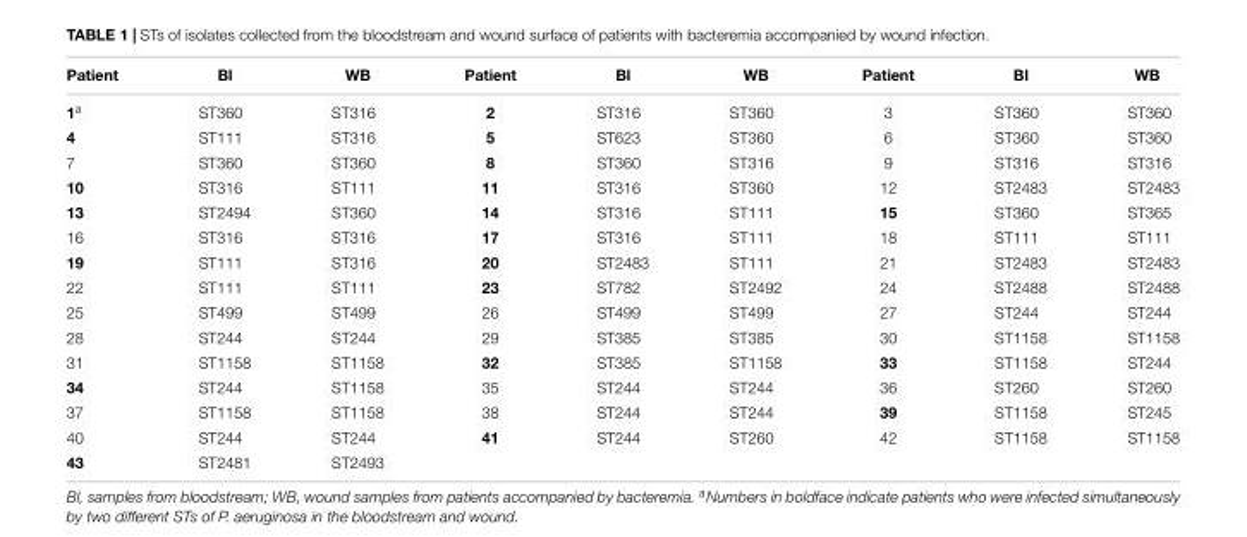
<table><thead><tr><td>Patient</td><td>Bl</td><td>WB</td><td>Patient</td><td>Bl</td><td>WB</td><td>Patient</td><td>Bl</td><td>WB</td></tr></thead><tbody><tr><td>1<sup>a</sup></td><td>ST360</td><td>ST316</td><td>2</td><td>ST316</td><td>ST360</td><td>3</td><td>ST360</td><td>ST360</td></tr><tr><td>4</td><td>ST111</td><td>ST316</td><td>5</td><td>ST623</td><td>ST360</td><td>6</td><td>ST360</td><td>ST360</td></tr><tr><td>7</td><td>ST360</td><td>ST360</td><td>8</td><td>ST360</td><td>ST316</td><td>9</td><td>ST316</td><td>ST316</td></tr><tr><td>10</td><td>ST316</td><td>ST111</td><td>11</td><td>ST316</td><td>ST360</td><td>12</td><td>ST2483</td><td>ST2483</td></tr><tr><td>13</td><td>ST2494</td><td>ST360</td><td>14</td><td>ST316</td><td>ST111</td><td>15</td><td>ST360</td><td>ST365</td></tr><tr><td>16</td><td>ST316</td><td>ST316</td><td>17</td><td>ST316</td><td>ST111</td><td>18</td><td>ST111</td><td>ST111</td></tr><tr><td>19</td><td>ST111</td><td>ST316</td><td>20</td><td>ST2483</td><td>ST111</td><td>21</td><td>ST2483</td><td>ST2483</td></tr><tr><td>22</td><td>ST111</td><td>ST111</td><td>23</td><td>ST782</td><td>ST2492</td><td>24</td><td>ST2488</td><td>ST2488</td></tr><tr><td>25</td><td>ST499</td><td>ST499</td><td>26</td><td>ST499</td><td>ST499</td><td>27</td><td>ST244</td><td>ST244</td></tr><tr><td>28</td><td>ST244</td><td>ST244</td><td>29</td><td>ST385</td><td>ST385</td><td>30</td><td>ST1158</td><td>ST1158</td></tr><tr><td>31</td><td>ST1158</td><td>ST1158</td><td>32</td><td>ST385</td><td>ST1158</td><td>33</td><td>ST1158</td><td>ST244</td></tr><tr><td>34</td><td>ST244</td><td>ST1158</td><td>35</td><td>ST244</td><td>ST244</td><td>36</td><td>ST260</td><td>ST260</td></tr><tr><td>37</td><td>ST1158</td><td>ST1158</td><td>38</td><td>ST244</td><td>ST244</td><td>39</td><td>ST1158</td><td>ST245</td></tr><tr><td>40</td><td>ST244</td><td>ST244</td><td>41</td><td>ST244</td><td>ST260</td><td>42</td><td>ST1158</td><td>ST1158</td></tr><tr><td>43</td><td>ST2481</td><td>ST2493</td><td></td><td></td><td></td><td></td><td></td><td></td></tr></tbody></table>